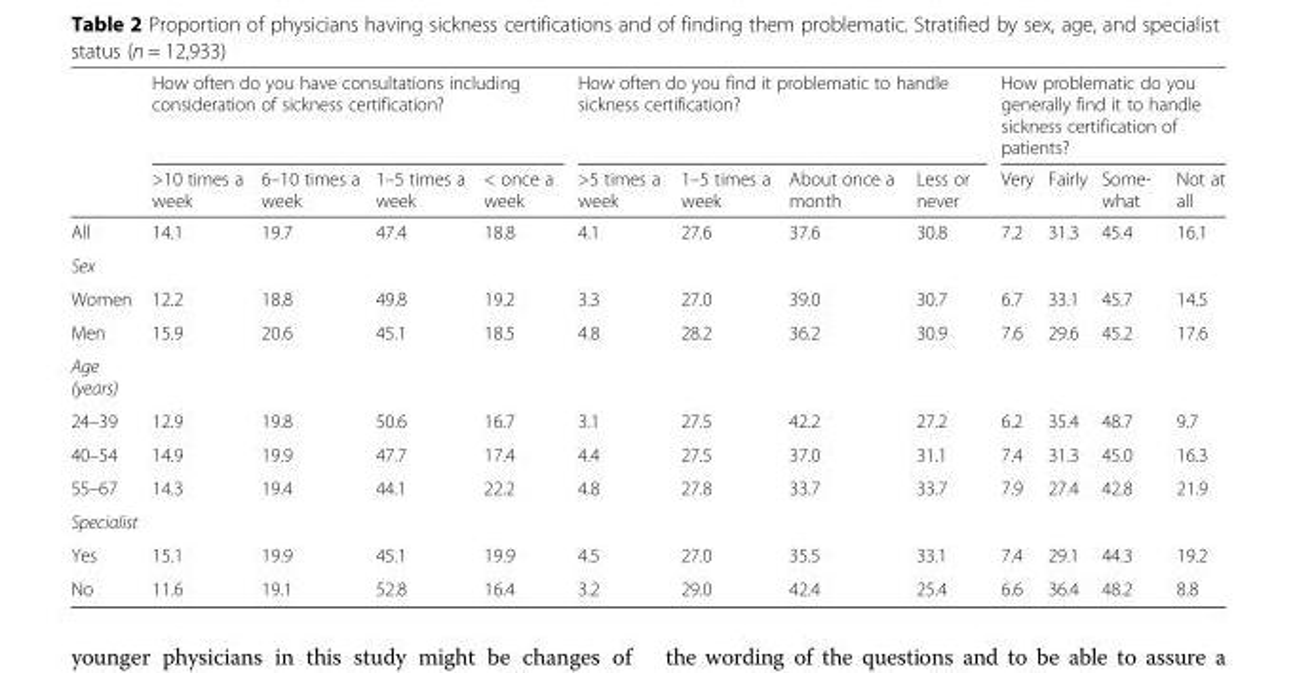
<table><thead><tr><td rowspan="2"></td><td colspan="4">How often do you have consultations including consideration of sickness certification?</td><td colspan="4">How often do you find it problematic to handle sickness certification?</td><td colspan="4">How problematic do you generally find it to handle sickness certification of patients?</td></tr><tr><td>&gt;10 times a week</td><td>6–10 times a week</td><td>1–5 times a week</td><td>&lt; once a week</td><td>&gt;5 times a week</td><td>1–5 times a week</td><td>About once a month</td><td>Less or never</td><td>Very</td><td>Fairly</td><td>Some- what</td><td>Not at all</td></tr></thead><tbody><tr><td>All</td><td>14.1</td><td>19.7</td><td>47.4</td><td>18.8</td><td>4.1</td><td>27.6</td><td>37.6</td><td>30.8</td><td>7.2</td><td>31.3</td><td>45.4</td><td>16.1</td></tr><tr><td colspan="13">Sex</td></tr><tr><td>Women</td><td>12.2</td><td>18.8</td><td>49.8</td><td>19.2</td><td>3.3</td><td>27.0</td><td>39.0</td><td>30.7</td><td>6.7</td><td>33.1</td><td>45.7</td><td>14.5</td></tr><tr><td>Men</td><td>15.9</td><td>20.6</td><td>45.1</td><td>18.5</td><td>4.8</td><td>28.2</td><td>36.2</td><td>30.9</td><td>7.6</td><td>29.6</td><td>45.2</td><td>17.6</td></tr><tr><td colspan="13">Age (years)</td></tr><tr><td>24–39</td><td>12.9</td><td>19.8</td><td>50.6</td><td>16.7</td><td>3.1</td><td>27.5</td><td>42.2</td><td>27.2</td><td>6.2</td><td>35.4</td><td>48.7</td><td>9.7</td></tr><tr><td>40–54</td><td>14.9</td><td>19.9</td><td>47.7</td><td>17.4</td><td>4.4</td><td>27.5</td><td>37.0</td><td>31.1</td><td>7.4</td><td>31.3</td><td>45.0</td><td>16.3</td></tr><tr><td>55–67</td><td>14.3</td><td>19.4</td><td>44.1</td><td>22.2</td><td>4.8</td><td>27.8</td><td>33.7</td><td>33.7</td><td>7.9</td><td>27.4</td><td>42.8</td><td>21.9</td></tr><tr><td colspan="13">Specialist</td></tr><tr><td>Yes</td><td>15.1</td><td>19.9</td><td>45.1</td><td>19.9</td><td>4.5</td><td>27.0</td><td>35.5</td><td>33.1</td><td>7.4</td><td>29.1</td><td>44.3</td><td>19.2</td></tr><tr><td>No</td><td>11.6</td><td>19.1</td><td>52.8</td><td>16.4</td><td>3.2</td><td>29.0</td><td>42.4</td><td>25.4</td><td>6.6</td><td>36.4</td><td>48.2</td><td>8.8</td></tr></tbody></table>